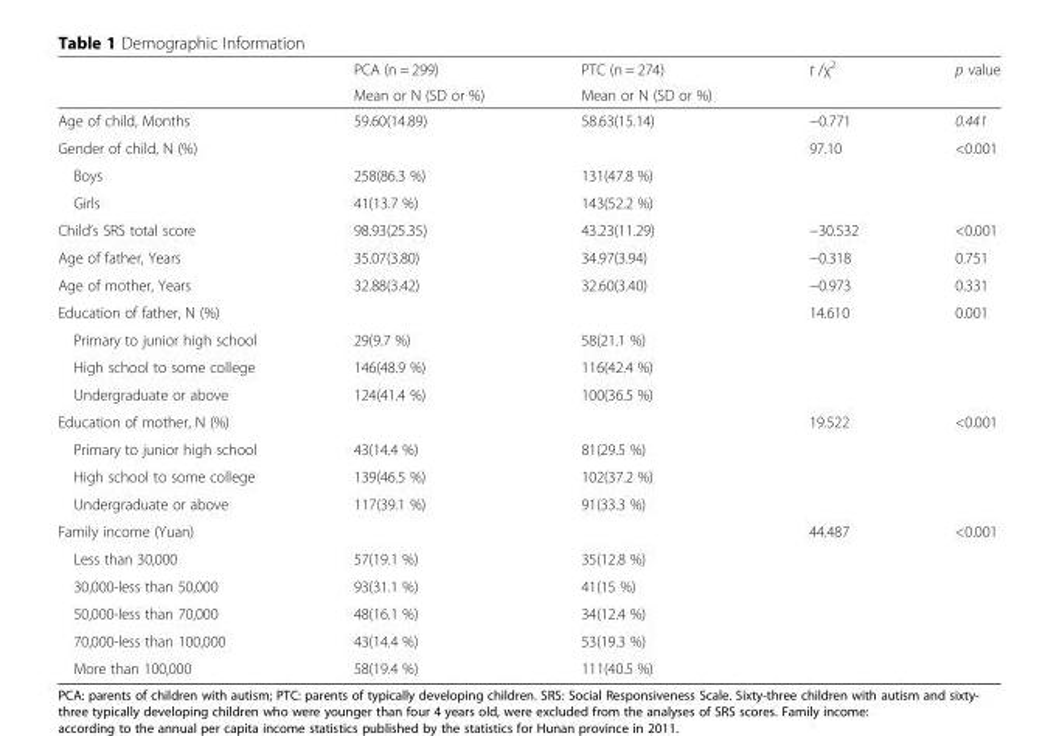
<table><thead><tr><td rowspan="2"></td><td rowspan="2">PCA (n = 299) Mean or N (SD or %)</td><td rowspan="2">PTC (n = 274) Mean or N (SD or %)</td><td rowspan="2">t /χ<sup>2</sup></td><td rowspan="2">p value</td></tr><tr></tr></thead><tbody><tr><td>Age of child, Months</td><td>59.60(14.89)</td><td>58.63(15.14)</td><td>−0.771</td><td>0.441</td></tr><tr><td>Gender of child, N (%)</td><td></td><td></td><td>97.10</td><td>&lt;0.001</td></tr><tr><td>Boys</td><td>258(86.3 %)</td><td>131(47.8 %)</td><td></td><td></td></tr><tr><td>Girls</td><td>41(13.7 %)</td><td>143(52.2 %)</td><td></td><td></td></tr><tr><td>Child’s SRS total score</td><td>98.93(25.35)</td><td>43.23(11.29)</td><td>−30.532</td><td>&lt;0.001</td></tr><tr><td>Age of father, Years</td><td>35.07(3.80)</td><td>34.97(3.94)</td><td>−0.318</td><td>0.751</td></tr><tr><td>Age of mother, Years</td><td>32.88(3.42)</td><td>32.60(3.40)</td><td>−0.973</td><td>0.331</td></tr><tr><td>Education of father, N (%)</td><td></td><td></td><td>14.610</td><td>0.001</td></tr><tr><td>Primary to junior high school</td><td>29(9.7 %)</td><td>58(21.1 %)</td><td></td><td></td></tr><tr><td>High school to some college</td><td>146(48.9 %)</td><td>116(42.4 %)</td><td></td><td></td></tr><tr><td>Undergraduate or above</td><td>124(41.4 %)</td><td>100(36.5 %)</td><td></td><td></td></tr><tr><td>Education of mother, N (%)</td><td></td><td></td><td>19.522</td><td>&lt;0.001</td></tr><tr><td>Primary to junior high school</td><td>43(14.4 %)</td><td>81(29.5 %)</td><td></td><td></td></tr><tr><td>High school to some college</td><td>139(46.5 %)</td><td>102(37.2 %)</td><td></td><td></td></tr><tr><td>Undergraduate or above</td><td>117(39.1 %)</td><td>91(33.3 %)</td><td></td><td></td></tr><tr><td>Family income (Yuan)</td><td></td><td></td><td>44.487</td><td>&lt;0.001</td></tr><tr><td>Less than 30,000</td><td>57(19.1 %)</td><td>35(12.8 %)</td><td></td><td></td></tr><tr><td>30,000-less than 50,000</td><td>93(31.1 %)</td><td>41(15 %)</td><td></td><td></td></tr><tr><td>50,000-less than 70,000</td><td>48(16.1 %)</td><td>34(12.4 %)</td><td></td><td></td></tr><tr><td>70,000-less than 100,000</td><td>43(14.4 %)</td><td>53(19.3 %)</td><td></td><td></td></tr><tr><td>More than 100,000</td><td>58(19.4 %)</td><td>111(40.5 %)</td><td></td><td></td></tr></tbody></table>